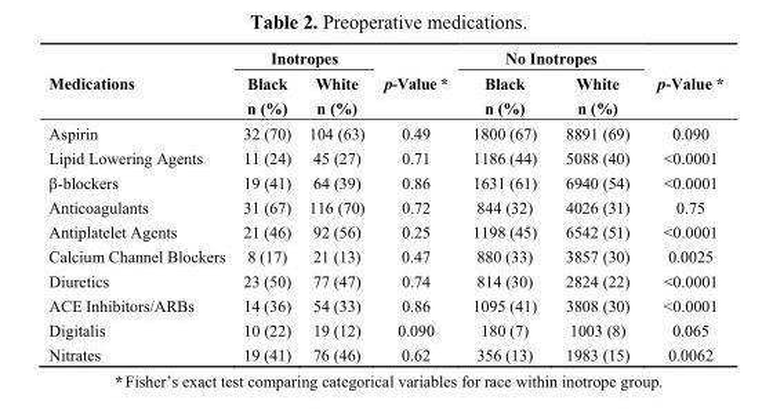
<table><thead><tr><td rowspan="2">Medications</td><td colspan="2">Inotropes</td><td rowspan="2">p-Value *</td><td colspan="2">No Inotropes</td><td rowspan="2">p-Value *</td></tr><tr><td>Black n (%)</td><td>White n (%)</td><td>Black n (%)</td><td>White n (%)</td></tr></thead><tbody><tr><td>Aspirin</td><td>32 (70)</td><td>104 (63)</td><td>0.49</td><td>1800 (67)</td><td>8891 (69)</td><td>0.090</td></tr><tr><td>Lipid Lowering Agents</td><td>11 (24)</td><td>45 (27)</td><td>0.71</td><td>1186 (44)</td><td>5088 (40)</td><td>&lt;0.0001</td></tr><tr><td>β-blockers</td><td>19 (41)</td><td>64 (39)</td><td>0.86</td><td>1631 (61)</td><td>6940 (54)</td><td>&lt;0.0001</td></tr><tr><td>Anticoagulants</td><td>31 (67)</td><td>116 (70)</td><td>0.72</td><td>844 (32)</td><td>4026 (31)</td><td>0.75</td></tr><tr><td>Antiplatelet Agents</td><td>21 (46)</td><td>92 (56)</td><td>0.25</td><td>1198 (45)</td><td>6542 (51)</td><td>&lt;0.0001</td></tr><tr><td>Calcium Channel Blockers</td><td>8 (17)</td><td>21 (13)</td><td>0.47</td><td>880 (33)</td><td>3857 (30)</td><td>0.0025</td></tr><tr><td>Diuretics</td><td>23 (50)</td><td>77 (47)</td><td>0.74</td><td>814 (30)</td><td>2824 (22)</td><td>&lt;0.0001</td></tr><tr><td>ACE Inhibitors/ARBs</td><td>14 (36)</td><td>54 (33)</td><td>0.86</td><td>1095 (41)</td><td>3808 (30)</td><td>&lt;0.0001</td></tr><tr><td>Digitalis</td><td>10 (22)</td><td>19 (12)</td><td>0.090</td><td>180 (7)</td><td>1003 (8)</td><td>0.065</td></tr><tr><td>Nitrates</td><td>19 (41)</td><td>76 (46)</td><td>0.62</td><td>356 (13)</td><td>1983 (15)</td><td>0.0062</td></tr></tbody></table>